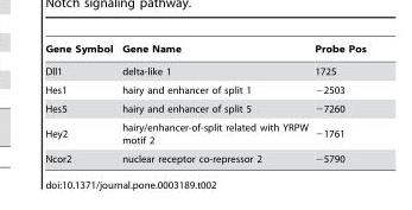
<table><thead><tr><td>Gene Symbol</td><td>Gene Name</td><td>Probe Pos</td></tr></thead><tbody><tr><td>Dll1</td><td>delta-like 1</td><td>1725</td></tr><tr><td>Hes1</td><td>hairy and enhancer of split 1</td><td>−2503</td></tr><tr><td>Hes5</td><td>hairy and enhancer of split 5</td><td>−7260</td></tr><tr><td>Hey2</td><td>hairy/enhancer-of-split related with YRPW motif 2</td><td>−1761</td></tr><tr><td>Ncor2</td><td>nuclear receptor co-repressor 2</td><td>−5790</td></tr></tbody></table>